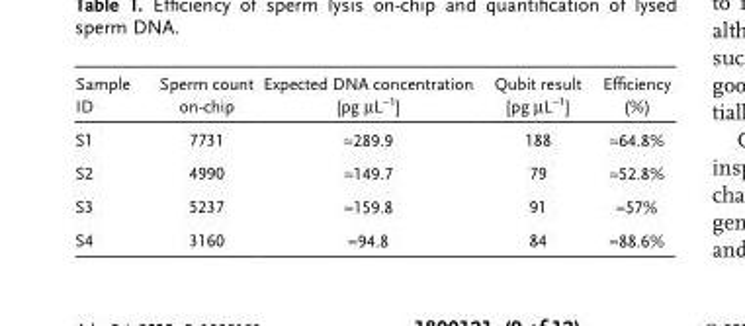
<table><thead><tr><td>Sample ID</td><td>Sperm count on-chip</td><td>Expected DNA concentration [pg µL<sup>−1</sup>]</td><td>Qubit result [pg µL<sup>−1</sup>]</td><td>Efficiency (%)</td></tr></thead><tbody><tr><td>S1</td><td>7731</td><td>≈289.9</td><td>188</td><td>≈64.8%</td></tr><tr><td>S2</td><td>4990</td><td>≈149.7</td><td>79</td><td>≈52.8%</td></tr><tr><td>S3</td><td>5237</td><td>≈159.8</td><td>91</td><td>≈57%</td></tr><tr><td>S4</td><td>3160</td><td>≈94.8</td><td>84</td><td>≈88.6%</td></tr></tbody></table>